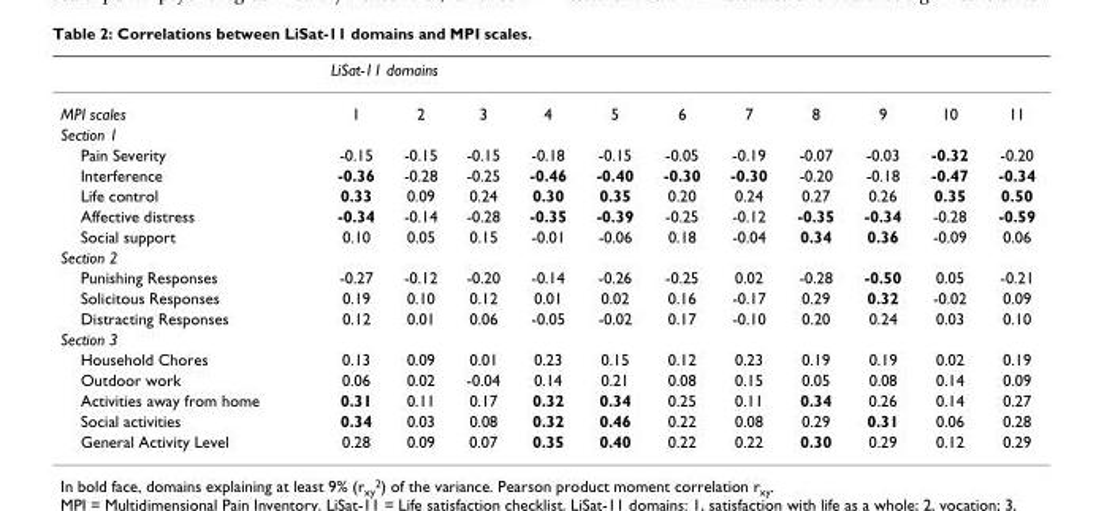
<table><thead><tr><td rowspan="2">MPI scales</td><td colspan="11">LiSat-11 domains</td></tr><tr><td>1</td><td>2</td><td>3</td><td>4</td><td>5</td><td>6</td><td>7</td><td>8</td><td>9</td><td>10</td><td>11</td></tr></thead><tbody><tr><td colspan="12">Section 1</td></tr><tr><td>Pain Severity</td><td>-0.15</td><td>-0.15</td><td>-0.15</td><td>-0.18</td><td>-0.15</td><td>-0.05</td><td>-0.19</td><td>-0.07</td><td>-0.03</td><td>-0.32</td><td>-0.20</td></tr><tr><td>Interference</td><td>-0.36</td><td>-0.28</td><td>-0.25</td><td>-0.46</td><td>-0.40</td><td>-0.30</td><td>-0.30</td><td>-0.20</td><td>-0.18</td><td>-0.47</td><td>-0.34</td></tr><tr><td>Life control</td><td>0.33</td><td>0.09</td><td>0.24</td><td>0.30</td><td>0.35</td><td>0.20</td><td>0.24</td><td>0.27</td><td>0.26</td><td>0.35</td><td>0.50</td></tr><tr><td>Affective distress</td><td>-0.34</td><td>-0.14</td><td>-0.28</td><td>-0.35</td><td>-0.39</td><td>-0.25</td><td>-0.12</td><td>-0.35</td><td>-0.34</td><td>-0.28</td><td>-0.59</td></tr><tr><td>Social support</td><td>0.10</td><td>0.05</td><td>0.15</td><td>-0.01</td><td>-0.06</td><td>0.18</td><td>-0.04</td><td>0.34</td><td>0.36</td><td>-0.09</td><td>0.06</td></tr><tr><td colspan="12">Section 2</td></tr><tr><td>Punishing Responses</td><td>-0.27</td><td>-0.12</td><td>-0.20</td><td>-0.14</td><td>-0.26</td><td>-0.25</td><td>0.02</td><td>-0.28</td><td>-0.50</td><td>0.05</td><td>-0.21</td></tr><tr><td>Solicitous Responses</td><td>0.19</td><td>0.10</td><td>0.12</td><td>0.01</td><td>0.02</td><td>0.16</td><td>-0.17</td><td>0.29</td><td>0.32</td><td>-0.02</td><td>0.09</td></tr><tr><td>Distracting Responses</td><td>0.12</td><td>0.01</td><td>0.06</td><td>-0.05</td><td>-0.02</td><td>0.17</td><td>-0.10</td><td>0.20</td><td>0.24</td><td>0.03</td><td>0.10</td></tr><tr><td colspan="12">Section 3</td></tr><tr><td>Household Chores</td><td>0.13</td><td>0.09</td><td>0.01</td><td>0.23</td><td>0.15</td><td>0.12</td><td>0.23</td><td>0.19</td><td>0.19</td><td>0.02</td><td>0.19</td></tr><tr><td>Outdoor work</td><td>0.06</td><td>0.02</td><td>-0.04</td><td>0.14</td><td>0.21</td><td>0.08</td><td>0.15</td><td>0.05</td><td>0.08</td><td>0.14</td><td>0.09</td></tr><tr><td>Activities away from home</td><td>0.31</td><td>0.11</td><td>0.17</td><td>0.32</td><td>0.34</td><td>0.25</td><td>0.11</td><td>0.34</td><td>0.26</td><td>0.14</td><td>0.27</td></tr><tr><td>Social activities</td><td>0.34</td><td>0.03</td><td>0.08</td><td>0.32</td><td>0.46</td><td>0.22</td><td>0.08</td><td>0.29</td><td>0.31</td><td>0.06</td><td>0.28</td></tr><tr><td>General Activity Level</td><td>0.28</td><td>0.09</td><td>0.07</td><td>0.35</td><td>0.40</td><td>0.22</td><td>0.22</td><td>0.30</td><td>0.29</td><td>0.12</td><td>0.29</td></tr></tbody></table>